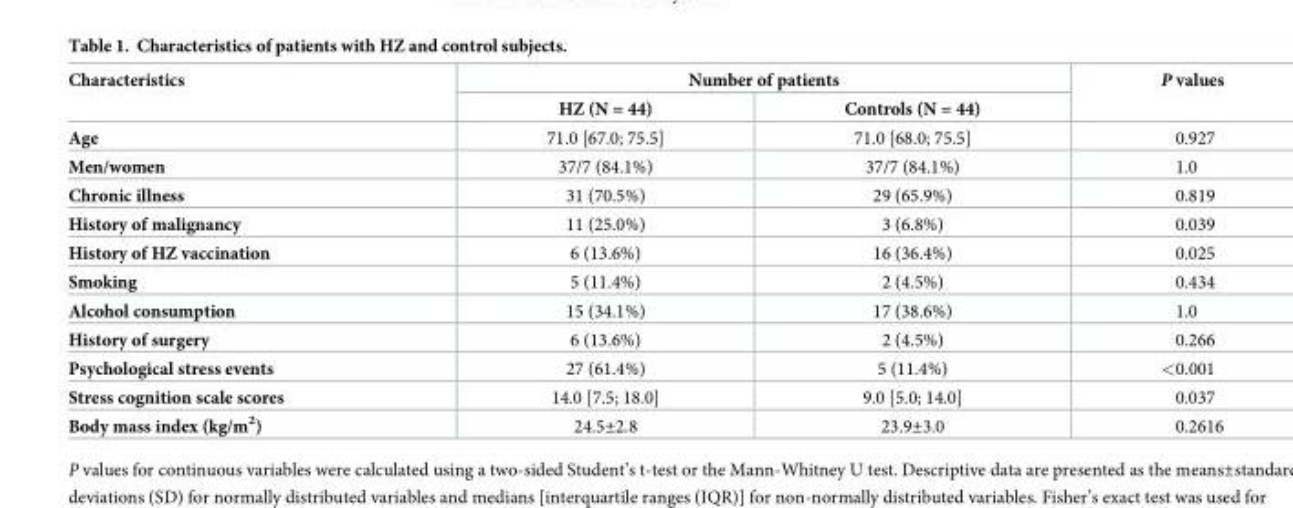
<table><thead><tr><td rowspan="2">Characteristics</td><td colspan="2">Number of patients</td><td rowspan="2">P values</td></tr><tr><td>HZ (N = 44)</td><td>Controls (N = 44)</td></tr></thead><tbody><tr><td>Age</td><td>71.0 [67.0; 75.5]</td><td>71.0 [68.0; 75.5]</td><td>0.927</td></tr><tr><td>Men/women</td><td>37/7 (84.1%)</td><td>37/7 (84.1%)</td><td>1.0</td></tr><tr><td>Chronic illness</td><td>31 (70.5%)</td><td>29 (65.9%)</td><td>0.819</td></tr><tr><td>History of malignancy</td><td>11 (25.0%)</td><td>3 (6.8%)</td><td>0.039</td></tr><tr><td>History of HZ vaccination</td><td>6 (13.6%)</td><td>16 (36.4%)</td><td>0.025</td></tr><tr><td>Smoking</td><td>5 (11.4%)</td><td>2 (4.5%)</td><td>0.434</td></tr><tr><td>Alcohol consumption</td><td>15 (34.1%)</td><td>17 (38.6%)</td><td>1.0</td></tr><tr><td>History of surgery</td><td>6 (13.6%)</td><td>2 (4.5%)</td><td>0.266</td></tr><tr><td>Psychological stress events</td><td>27 (61.4%)</td><td>5 (11.4%)</td><td>&lt;0.001</td></tr><tr><td>Stress cognition scale scores</td><td>14.0 [7.5; 18.0]</td><td>9.0 [5.0; 14.0]</td><td>0.037</td></tr><tr><td>Body mass index (kg/m<sup>2</sup>)</td><td>24.5±2.8</td><td>23.9±3.0</td><td>0.2616</td></tr></tbody></table>